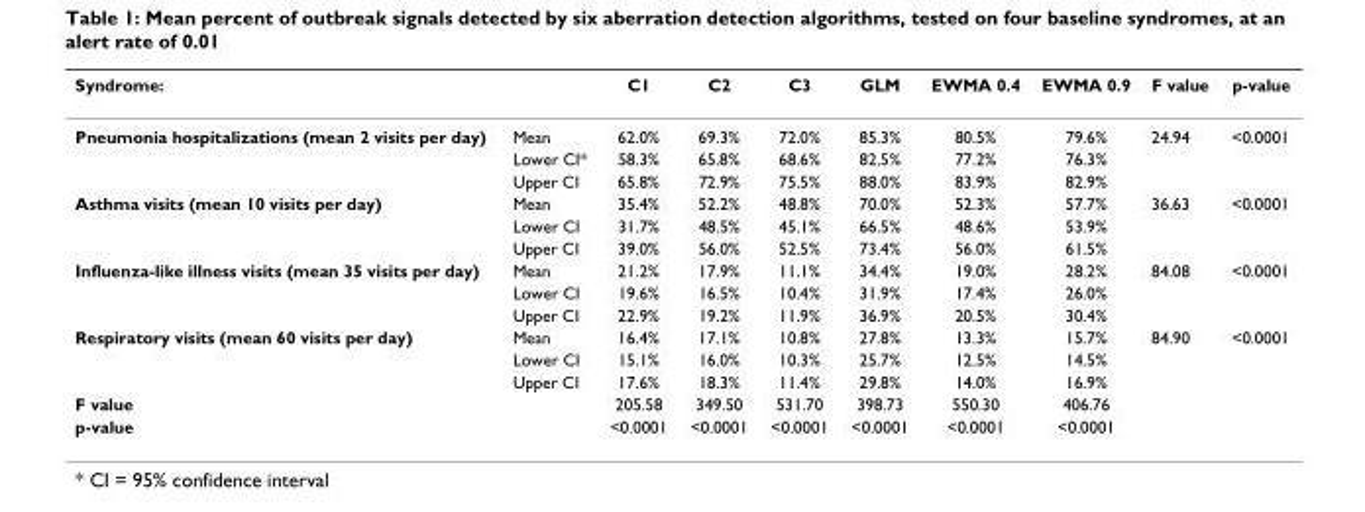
<table><thead><tr><td colspan="2">Syndrome:</td><td rowspan="2">C1 62.0%</td><td rowspan="2">C2 69.3%</td><td rowspan="2">C3 72.0%</td><td rowspan="2">GLM 85.3%</td><td rowspan="2">EWMA 0.4 80.5%</td><td rowspan="2">EWMA 0.9 79.6%</td><td rowspan="2">F value 24.94</td><td rowspan="2">p-value &lt;0.0001</td></tr><tr><td>Pneumonia hospitalizations (mean 2 visits per day)</td><td>Mean</td></tr></thead><tbody><tr><td></td><td>Lower CI*</td><td>58.3%</td><td>65.8%</td><td>68.6%</td><td>82.5%</td><td>77.2%</td><td>76.3%</td><td></td><td></td></tr><tr><td></td><td>Upper CI</td><td>65.8%</td><td>72.9%</td><td>75.5%</td><td>88.0%</td><td>83.9%</td><td>82.9%</td><td></td><td></td></tr><tr><td rowspan="3">Asthma visits (mean 10 visits per day)</td><td>Mean</td><td>35.4%</td><td>52.2%</td><td>48.8%</td><td>70.0%</td><td>52.3%</td><td>57.7%</td><td>36.63</td><td>&lt;0.0001</td></tr><tr><td>Lower CI</td><td>31.7%</td><td>48.5%</td><td>45.1%</td><td>66.5%</td><td>48.6%</td><td>53.9%</td><td></td><td></td></tr><tr><td>Upper CI</td><td>39.0%</td><td>56.0%</td><td>52.5%</td><td>73.4%</td><td>56.0%</td><td>61.5%</td><td></td><td></td></tr><tr><td rowspan="3">Influenza-like illness visits (mean 35 visits per day)</td><td>Mean</td><td>21.2%</td><td>17.9%</td><td>11.1%</td><td>34.4%</td><td>19.0%</td><td>28.2%</td><td>84.08</td><td>&lt;0.0001</td></tr><tr><td>Lower CI</td><td>19.6%</td><td>16.5%</td><td>10.4%</td><td>31.9%</td><td>17.4%</td><td>26.0%</td><td></td><td></td></tr><tr><td>Upper CI</td><td>22.9%</td><td>19.2%</td><td>11.9%</td><td>36.9%</td><td>20.5%</td><td>30.4%</td><td></td><td></td></tr><tr><td rowspan="3">Respiratory visits (mean 60 visits per day)</td><td>Mean</td><td>16.4%</td><td>17.1%</td><td>10.8%</td><td>27.8%</td><td>13.3%</td><td>15.7%</td><td>84.90</td><td>&lt;0.0001</td></tr><tr><td>Lower CI</td><td>15.1%</td><td>16.0%</td><td>10.3%</td><td>25.7%</td><td>12.5%</td><td>14.5%</td><td></td><td></td></tr><tr><td>Upper CI</td><td>17.6%</td><td>18.3%</td><td>11.4%</td><td>29.8%</td><td>14.0%</td><td>16.9%</td><td></td><td></td></tr><tr><td colspan="2">F value</td><td>205.58</td><td>349.50</td><td>531.70</td><td>398.73</td><td>550.30</td><td>406.76</td><td></td><td></td></tr><tr><td colspan="2">p-value</td><td>&lt;0.0001</td><td>&lt;0.0001</td><td>&lt;0.0001</td><td>&lt;0.0001</td><td>&lt;0.0001</td><td>&lt;0.0001</td><td></td><td></td></tr></tbody></table>